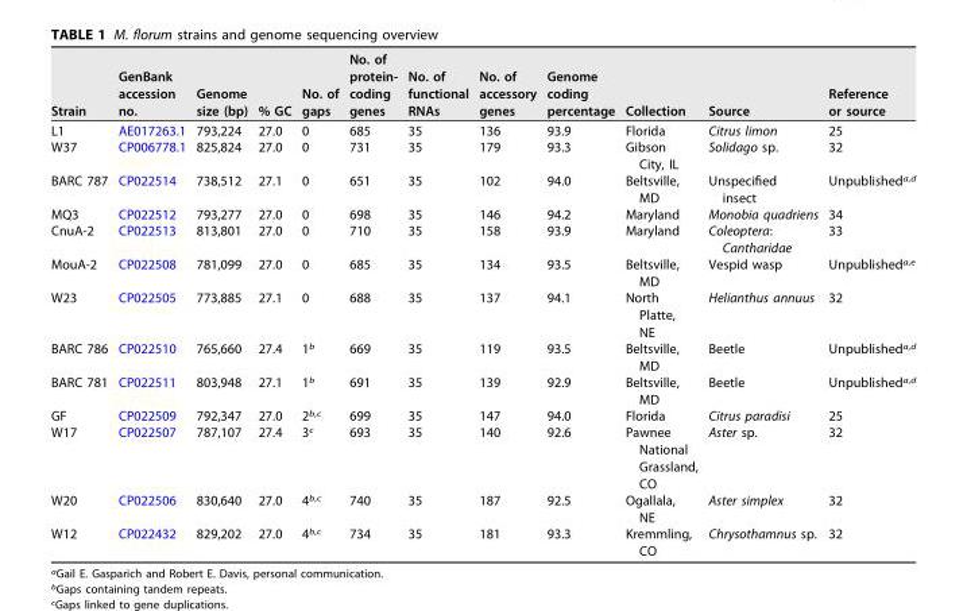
<table><thead><tr><td>Strain</td><td>GenBank accession no.</td><td>Genome size (bp)</td><td>% GC</td><td>No. of gaps</td><td>No. of protein- coding genes</td><td>No. of functional RNAs</td><td>No. of accessory genes</td><td>Genome coding percentage</td><td>Collection</td><td>Source</td><td>Reference or source</td></tr></thead><tbody><tr><td>L1</td><td>AE017263.1</td><td>793,224</td><td>27.0</td><td>0</td><td>685</td><td>35</td><td>136</td><td>93.9</td><td>Florida</td><td>Citrus limon</td><td>25</td></tr><tr><td>W37</td><td>CP006778.1</td><td>825,824</td><td>27.0</td><td>0</td><td>731</td><td>35</td><td>179</td><td>93.3</td><td>Gibson City, IL</td><td>Solidago sp.</td><td>32</td></tr><tr><td>BARC 787</td><td>CP022514</td><td>738,512</td><td>27.1</td><td>0</td><td>651</td><td>35</td><td>102</td><td>94.0</td><td>Beltsville, MD</td><td>Unspecified insect</td><td>Unpublished<sup>a,d</sup></td></tr><tr><td>MQ3</td><td>CP022512</td><td>793,277</td><td>27.0</td><td>0</td><td>698</td><td>35</td><td>146</td><td>94.2</td><td>Maryland</td><td>Monobia quadriens</td><td>34</td></tr><tr><td>CnuA-2</td><td>CP022513</td><td>813,801</td><td>27.0</td><td>0</td><td>710</td><td>35</td><td>158</td><td>93.9</td><td>Maryland</td><td>Coleoptera: Cantharidae</td><td>33</td></tr><tr><td>MouA-2</td><td>CP022508</td><td>781,099</td><td>27.0</td><td>0</td><td>685</td><td>35</td><td>134</td><td>93.5</td><td>Beltsville, MD</td><td>Vespid wasp</td><td>Unpublished<sup>a,e</sup></td></tr><tr><td>W23</td><td>CP022505</td><td>773,885</td><td>27.1</td><td>0</td><td>688</td><td>35</td><td>137</td><td>94.1</td><td>North Platte, NE</td><td>Helianthus annuus</td><td>32</td></tr><tr><td>BARC 786</td><td>CP022510</td><td>765,660</td><td>27.4</td><td>1<sup>b</sup></td><td>669</td><td>35</td><td>119</td><td>93.5</td><td>Beltsville, MD</td><td>Beetle</td><td>Unpublished<sup>a,d</sup></td></tr><tr><td>BARC 781</td><td>CP022511</td><td>803,948</td><td>27.1</td><td>1<sup>b</sup></td><td>691</td><td>35</td><td>139</td><td>92.9</td><td>Beltsville, MD</td><td>Beetle</td><td>Unpublished<sup>a,d</sup></td></tr><tr><td>GF</td><td>CP022509</td><td>792,347</td><td>27.0</td><td>2<sup>b</sup>,<sup>c</sup></td><td>699</td><td>35</td><td>147</td><td>94.0</td><td>Florida</td><td>Citrus paradisi</td><td>25</td></tr><tr><td>W17</td><td>CP022507</td><td>787,107</td><td>27.4</td><td>3<sup>c</sup></td><td>693</td><td>35</td><td>140</td><td>92.6</td><td>Pawnee National Grassland, CO</td><td>Aster sp.</td><td>32</td></tr><tr><td>W20</td><td>CP022506</td><td>830,640</td><td>27.0</td><td>4<sup>b</sup>,<sup>c</sup></td><td>740</td><td>35</td><td>187</td><td>92.5</td><td>Ogallala, NE</td><td>Aster simplex</td><td>32</td></tr><tr><td>W12</td><td>CP022432</td><td>829,202</td><td>27.0</td><td>4<sup>b</sup>,<sup>c</sup></td><td>734</td><td>35</td><td>181</td><td>93.3</td><td>Kremmling, CO</td><td>Chrysothamnus sp.</td><td>32</td></tr></tbody></table>